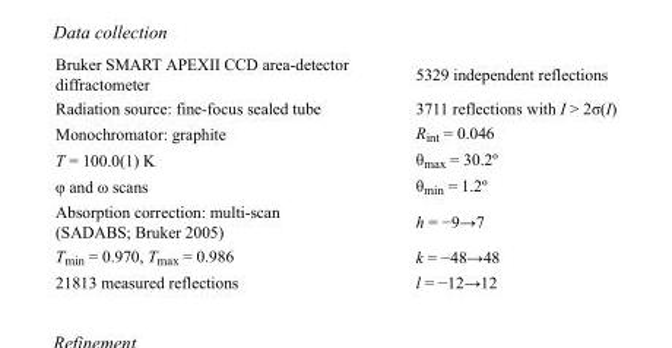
<table><tbody><tr><td>Bruker SMART APEXII CCD area-detector diffractometer</td><td>5329 independent reflections</td></tr><tr><td>Radiation source: fine-focus sealed tube</td><td>3711 reflections with I &gt; 2σ(I)</td></tr><tr><td>Monochromator: graphite</td><td>R<sub>int</sub> = 0.046</td></tr><tr><td>T = 100.0(1) K</td><td>θ<sub>max</sub> = 30.2º</td></tr><tr><td>φ and ω scans</td><td>θ<sub>min</sub> = 1.2º</td></tr><tr><td>Absorption correction: multi-scan (SADABS; Bruker 2005)</td><td>h = −9→7</td></tr><tr><td>T<sub>min</sub> = 0.970, T<sub>max</sub> = 0.986</td><td>k = −48→48</td></tr><tr><td>21813 measured reflections</td><td>l = −12→12</td></tr></tbody></table>